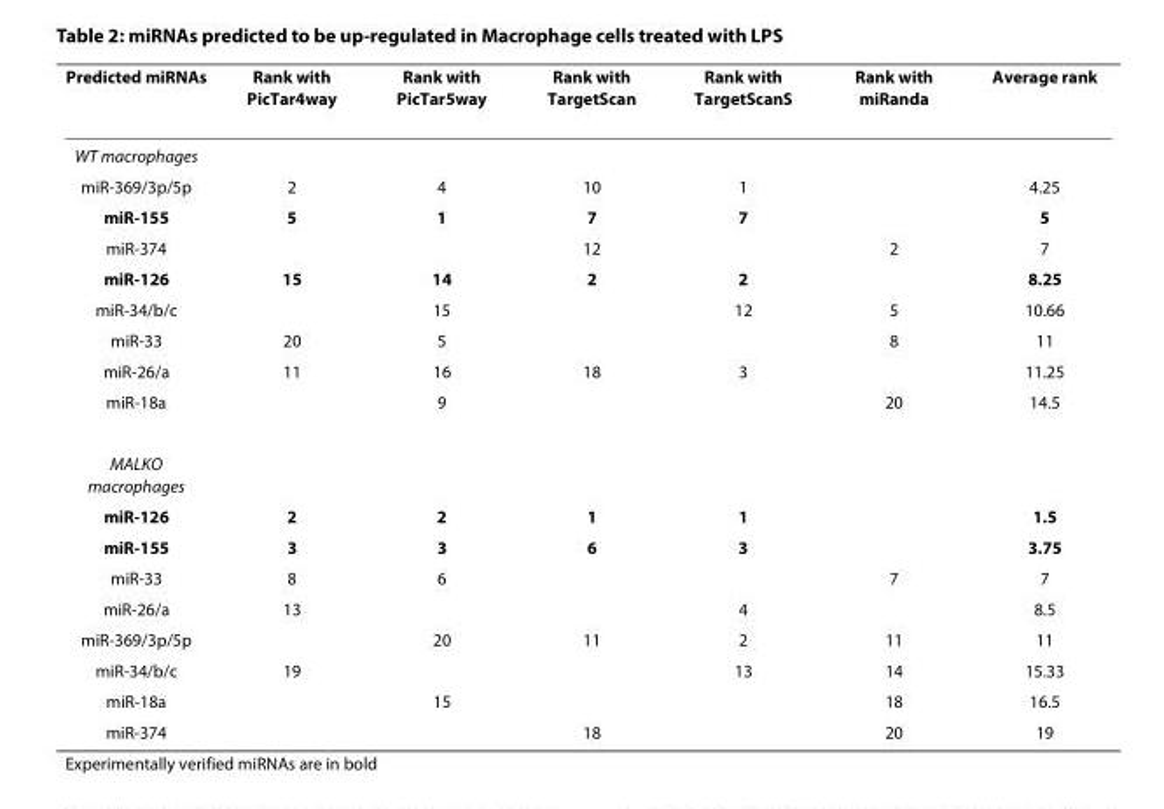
<table><thead><tr><td>Predicted miRNAs</td><td>Rank with PicTar4way</td><td>Rank with PicTar5way</td><td>Rank with TargetScan</td><td>Rank with TargetScanS</td><td>Rank with miRanda</td><td>Average rank</td></tr></thead><tbody><tr><td colspan="7">WT macrophages</td></tr><tr><td>miR-369/3p/5p</td><td>2</td><td>4</td><td>10</td><td>1</td><td></td><td>4.25</td></tr><tr><td>miR-155</td><td>5</td><td>1</td><td>7</td><td>7</td><td></td><td>5</td></tr><tr><td>miR-374</td><td></td><td></td><td>12</td><td></td><td>2</td><td>7</td></tr><tr><td>miR-126</td><td>15</td><td>14</td><td>2</td><td>2</td><td></td><td>8.25</td></tr><tr><td>miR-34/b/c</td><td></td><td>15</td><td></td><td>12</td><td>5</td><td>10.66</td></tr><tr><td>miR-33</td><td>20</td><td>5</td><td></td><td></td><td>8</td><td>11</td></tr><tr><td>miR-26/a</td><td>11</td><td>16</td><td>18</td><td>3</td><td></td><td>11.25</td></tr><tr><td>miR-18a</td><td></td><td>9</td><td></td><td></td><td>20</td><td>14.5</td></tr><tr><td colspan="7">MALKO macrophages</td></tr><tr><td>miR-126</td><td>2</td><td>2</td><td>1</td><td>1</td><td></td><td>1.5</td></tr><tr><td>miR-155</td><td>3</td><td>3</td><td>6</td><td>3</td><td></td><td>3.75</td></tr><tr><td>miR-33</td><td>8</td><td>6</td><td></td><td></td><td>7</td><td>7</td></tr><tr><td>miR-26/a</td><td>13</td><td></td><td></td><td>4</td><td></td><td>8.5</td></tr><tr><td>miR-369/3p/5p</td><td></td><td>20</td><td>11</td><td>2</td><td>11</td><td>11</td></tr><tr><td>miR-34/b/c</td><td>19</td><td></td><td></td><td>13</td><td>14</td><td>15.33</td></tr><tr><td>miR-18a</td><td></td><td>15</td><td></td><td></td><td>18</td><td>16.5</td></tr><tr><td>miR-374</td><td></td><td></td><td>18</td><td></td><td>20</td><td>19</td></tr></tbody></table>